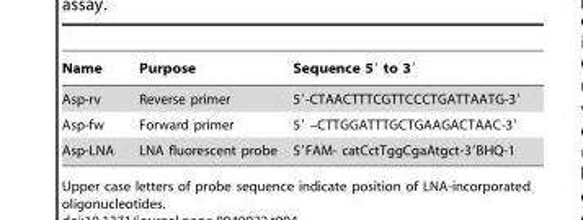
<table><thead><tr><td>Name</td><td>Purpose</td><td>Sequence 5′ to 3′</td></tr></thead><tbody><tr><td>Asp-rv</td><td>Reverse primer</td><td>5′-CTAACTTTCGTTCCCTGATTAATG-3′</td></tr><tr><td>Asp-fw</td><td>Forward primer</td><td>5′ –CTTGGATTTGCTGAAGACTAAC-3′</td></tr><tr><td>Asp-LNA</td><td>LNA fluorescent probe</td><td>5′FAM- catCctTggCgaAtgct-3′BHQ-1</td></tr></tbody></table>